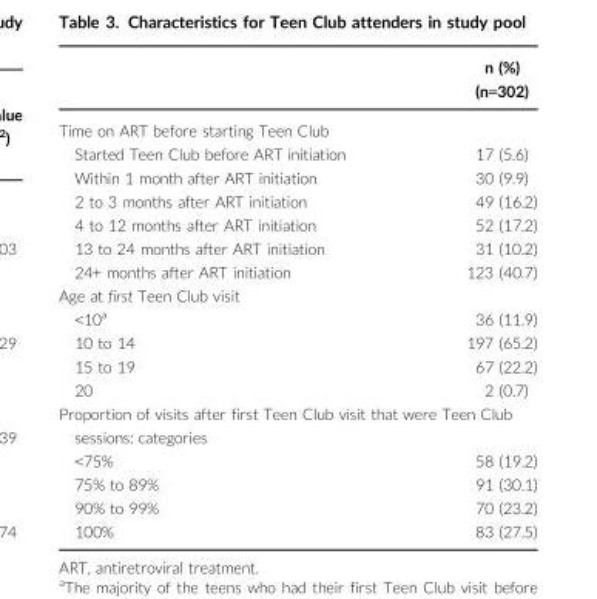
<table><thead><tr><td rowspan="2"></td><td rowspan="2">n (%) (n=302)</td></tr><tr></tr></thead><tbody><tr><td colspan="2">Time on ART before starting Teen Club</td></tr><tr><td>Started Teen Club before ART initiation</td><td>17 (5.6)</td></tr><tr><td>Within 1 month after ART initiation</td><td>30 (9.9)</td></tr><tr><td>2 to 3 months after ART initiation</td><td>49 (16.2)</td></tr><tr><td>4 to 12 months after ART initiation</td><td>52 (17.2)</td></tr><tr><td>13 to 24 months after ART initiation</td><td>31 (10.2)</td></tr><tr><td>24+ months after ART initiation</td><td>123 (40.7)</td></tr><tr><td colspan="2">Age at first Teen Club visit</td></tr><tr><td>&lt;10<sup>a</sup></td><td>36 (11.9)</td></tr><tr><td>10 to 14</td><td>197 (65.2)</td></tr><tr><td>15 to 19</td><td>67 (22.2)</td></tr><tr><td>20</td><td>2 (0.7)</td></tr><tr><td colspan="2">Proportion of visits after first Teen Club visit that were Teen Club sessions: categories</td></tr><tr><td>&lt;75%</td><td>58 (19.2)</td></tr><tr><td>75% to 89%</td><td>91 (30.1)</td></tr><tr><td>90% to 99%</td><td>70 (23.2)</td></tr><tr><td>100%</td><td>83 (27.5)</td></tr></tbody></table>